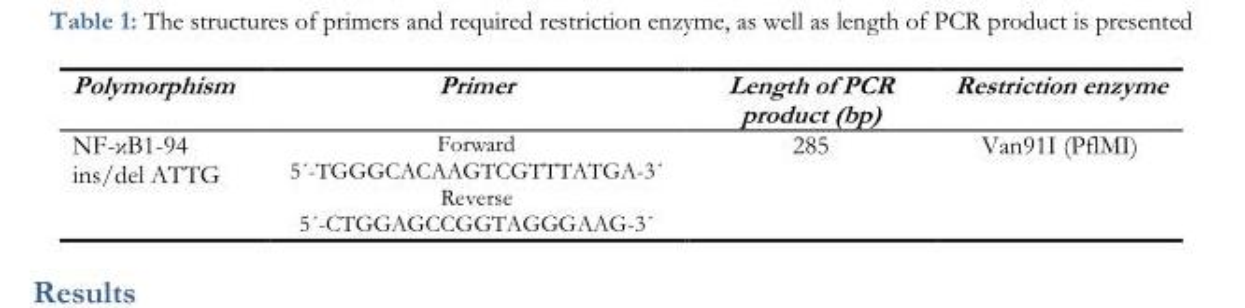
<table><thead><tr><td>Polymorphism</td><td>Primer</td><td>Length of PCR product (bp)</td><td>Restriction enzyme</td></tr></thead><tbody><tr><td>NF-κB1-94 ins/del ATTG</td><td>Forward 5´-TGGGCACAAGTCGTTTATGA-3´ Reverse 5´-CTGGAGCCGGTAGGGAAG-3´</td><td>285</td><td>Van91I (PflMI)</td></tr></tbody></table>